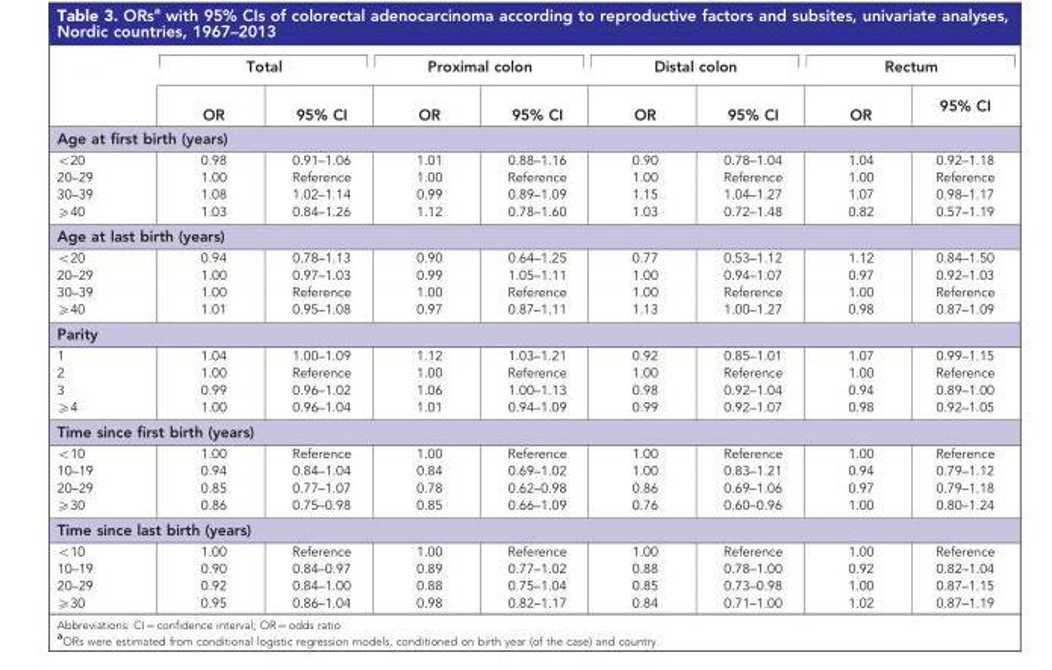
<table><thead><tr><td rowspan="2"></td><td colspan="2">Total</td><td colspan="2">Proximal colon</td><td colspan="2">Distal colon</td><td colspan="2">Rectum</td></tr><tr><td>OR</td><td>95% CI</td><td>OR</td><td>95% CI</td><td>OR</td><td>95% CI</td><td>OR</td><td>95% CI</td></tr></thead><tbody><tr><td colspan="9">Age at first birth (years)</td></tr><tr><td>&lt;20</td><td>0.98</td><td>0.91–1.06</td><td>1.01</td><td>0.88–1.16</td><td>0.90</td><td>0.78–1.04</td><td>1.04</td><td>0.92–1.18</td></tr><tr><td>20–29</td><td>1.00</td><td>Reference</td><td>1.00</td><td>Reference</td><td>1.00</td><td>Reference</td><td>1.00</td><td>Reference</td></tr><tr><td>30–39</td><td>1.08</td><td>1.02–1.14</td><td>0.99</td><td>0.89–1.09</td><td>1.15</td><td>1.04–1.27</td><td>1.07</td><td>0.98–1.17</td></tr><tr><td>⩾40</td><td>1.03</td><td>0.84–1.26</td><td>1.12</td><td>0.78–1.60</td><td>1.03</td><td>0.72–1.48</td><td>0.82</td><td>0.57–1.19</td></tr><tr><td colspan="9">Age at last birth (years)</td></tr><tr><td>&lt;20</td><td>0.94</td><td>0.78–1.13</td><td>0.90</td><td>0.64–1.25</td><td>0.77</td><td>0.53–1.12</td><td>1.12</td><td>0.84–1.50</td></tr><tr><td>20–29</td><td>1.00</td><td>0.97–1.03</td><td>0.99</td><td>1.05–1.11</td><td>1.00</td><td>0.94–1.07</td><td>0.97</td><td>0.92–1.03</td></tr><tr><td>30–39</td><td>1.00</td><td>Reference</td><td>1.00</td><td>Reference</td><td>1.00</td><td>Reference</td><td>1.00</td><td>Reference</td></tr><tr><td>⩾40</td><td>1.01</td><td>0.95–1.08</td><td>0.97</td><td>0.87–1.11</td><td>1.13</td><td>1.00–1.27</td><td>0.98</td><td>0.87–1.09</td></tr><tr><td colspan="9">Parity</td></tr><tr><td>1</td><td>1.04</td><td>1.00–1.09</td><td>1.12</td><td>1.03–1.21</td><td>0.92</td><td>0.85–1.01</td><td>1.07</td><td>0.99–1.15</td></tr><tr><td>2</td><td>1.00</td><td>Reference</td><td>1.00</td><td>Reference</td><td>1.00</td><td>Reference</td><td>1.00</td><td>Reference</td></tr><tr><td>3</td><td>0.99</td><td>0.96–1.02</td><td>1.06</td><td>1.00–1.13</td><td>0.98</td><td>0.92–1.04</td><td>0.94</td><td>0.89–1.00</td></tr><tr><td>⩾4</td><td>1.00</td><td>0.96–1.04</td><td>1.01</td><td>0.94–1.09</td><td>0.99</td><td>0.92–1.07</td><td>0.98</td><td>0.92–1.05</td></tr><tr><td colspan="9">Time since first birth (years)</td></tr><tr><td>&lt;10</td><td>1.00</td><td>Reference</td><td>1.00</td><td>Reference</td><td>1.00</td><td>Reference</td><td>1.00</td><td>Reference</td></tr><tr><td>10–19</td><td>0.94</td><td>0.84–1.04</td><td>0.84</td><td>0.69–1.02</td><td>1.00</td><td>0.83–1.21</td><td>0.94</td><td>0.79–1.12</td></tr><tr><td>20–29</td><td>0.85</td><td>0.77–1.07</td><td>0.78</td><td>0.62–0.98</td><td>0.86</td><td>0.69–1.06</td><td>0.97</td><td>0.79–1.18</td></tr><tr><td>⩾30</td><td>0.86</td><td>0.75–0.98</td><td>0.85</td><td>0.66–1.09</td><td>0.76</td><td>0.60–0.96</td><td>1.00</td><td>0.80–1.24</td></tr><tr><td colspan="9">Time since last birth (years)</td></tr><tr><td>&lt;10</td><td>1.00</td><td>Reference</td><td>1.00</td><td>Reference</td><td>1.00</td><td>Reference</td><td>1.00</td><td>Reference</td></tr><tr><td>10–19</td><td>0.90</td><td>0.84–0.97</td><td>0.89</td><td>0.77–1.02</td><td>0.88</td><td>0.78–1.00</td><td>0.92</td><td>0.82–1.04</td></tr><tr><td>20–29</td><td>0.92</td><td>0.84–1.00</td><td>0.88</td><td>0.75–1.04</td><td>0.85</td><td>0.73–0.98</td><td>1.00</td><td>0.87–1.15</td></tr><tr><td>⩾30</td><td>0.95</td><td>0.86–1.04</td><td>0.98</td><td>0.82–1.17</td><td>0.84</td><td>0.71–1.00</td><td>1.02</td><td>0.87–1.19</td></tr></tbody></table>